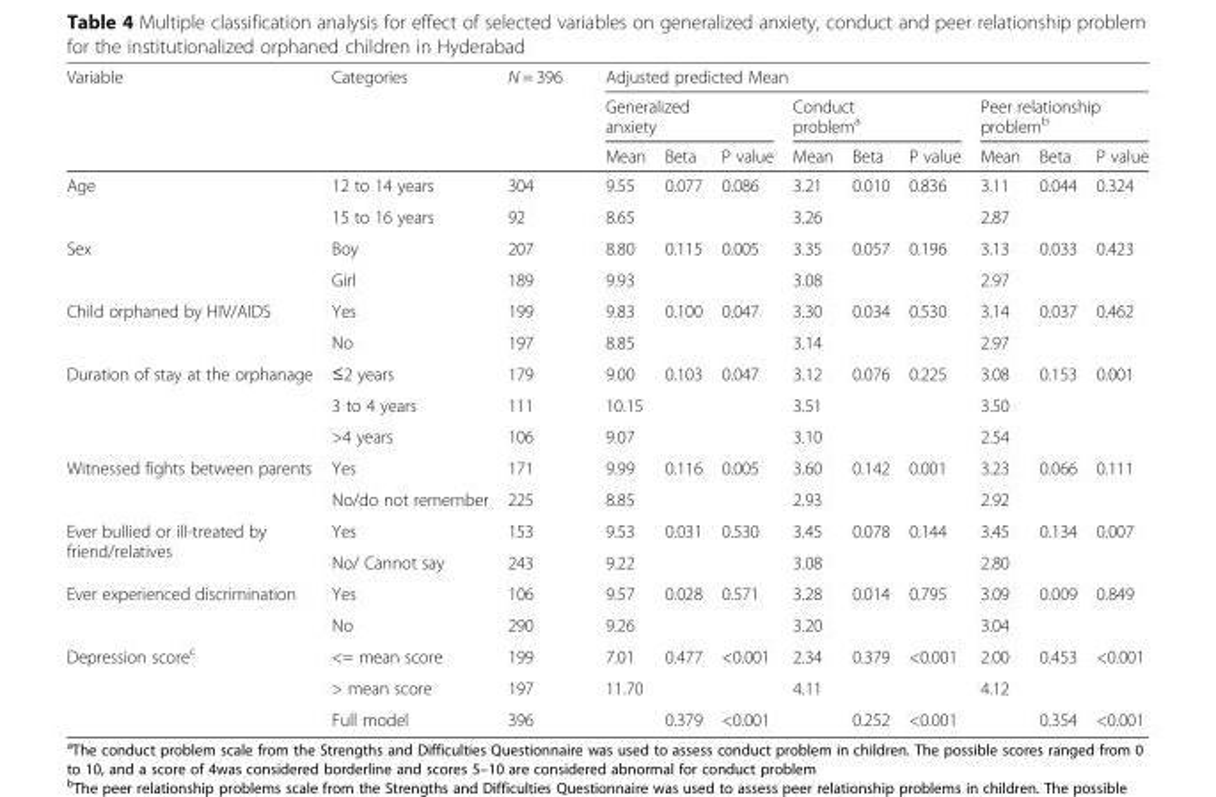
<table><thead><tr><td rowspan="3">Variable</td><td rowspan="3">Categories</td><td rowspan="3">N = 396</td><td colspan="9">Adjusted predicted Mean</td></tr><tr><td colspan="3">Generalized anxiety</td><td colspan="3">Conduct problem<sup>a</sup></td><td colspan="3">Peer relationship problem<sup>b</sup></td></tr><tr><td>Mean</td><td>Beta</td><td>P value</td><td>Mean</td><td>Beta</td><td>P value</td><td>Mean</td><td>Beta</td><td>P value</td></tr></thead><tbody><tr><td rowspan="2">Age</td><td>12 to 14 years</td><td>304</td><td>9.55</td><td rowspan="2">0.077</td><td rowspan="2">0.086</td><td>3.21</td><td rowspan="2">0.010</td><td rowspan="2">0.836</td><td>3.11</td><td rowspan="2">0.044</td><td rowspan="2">0.324</td></tr><tr><td>15 to 16 years</td><td>92</td><td>8.65</td><td>3.26</td><td>2.87</td></tr><tr><td rowspan="2">Sex</td><td>Boy</td><td>207</td><td>8.80</td><td rowspan="2">0.115</td><td rowspan="2">0.005</td><td>3.35</td><td rowspan="2">0.057</td><td rowspan="2">0.196</td><td>3.13</td><td rowspan="2">0.033</td><td rowspan="2">0.423</td></tr><tr><td>Girl</td><td>189</td><td>9.93</td><td>3.08</td><td>2.97</td></tr><tr><td rowspan="2">Child orphaned by HIV/AIDS</td><td>Yes</td><td>199</td><td>9.83</td><td rowspan="2">0.100</td><td rowspan="2">0.047</td><td>3.30</td><td rowspan="2">0.034</td><td rowspan="2">0.530</td><td>3.14</td><td rowspan="2">0.037</td><td rowspan="2">0.462</td></tr><tr><td>No</td><td>197</td><td>8.85</td><td>3.14</td><td>2.97</td></tr><tr><td rowspan="3">Duration of stay at the orphanage</td><td>≤2 years</td><td>179</td><td>9.00</td><td rowspan="3">0.103</td><td rowspan="3">0.047</td><td>3.12</td><td rowspan="3">0.076</td><td rowspan="3">0.225</td><td>3.08</td><td rowspan="3">0.153</td><td rowspan="3">0.001</td></tr><tr><td>3 to 4 years</td><td>111</td><td>10.15</td><td>3.51</td><td>3.50</td></tr><tr><td>&gt;4 years</td><td>106</td><td>9.07</td><td>3.10</td><td>2.54</td></tr><tr><td rowspan="2">Witnessed fights between parents</td><td>Yes</td><td>171</td><td>9.99</td><td rowspan="2">0.116</td><td rowspan="2">0.005</td><td>3.60</td><td rowspan="2">0.142</td><td rowspan="2">0.001</td><td>3.23</td><td rowspan="2">0.066</td><td rowspan="2">0.111</td></tr><tr><td>No/do not remember</td><td>225</td><td>8.85</td><td>2.93</td><td>2.92</td></tr><tr><td rowspan="2">Ever bullied or ill-treated by friend/relatives</td><td>Yes</td><td>153</td><td>9.53</td><td rowspan="2">0.031</td><td rowspan="2">0.530</td><td>3.45</td><td rowspan="2">0.078</td><td rowspan="2">0.144</td><td>3.45</td><td rowspan="2">0.134</td><td rowspan="2">0.007</td></tr><tr><td>No/ Cannot say</td><td>243</td><td>9.22</td><td>3.08</td><td>2.80</td></tr><tr><td rowspan="2">Ever experienced discrimination</td><td>Yes</td><td>106</td><td>9.57</td><td rowspan="2">0.028</td><td rowspan="2">0.571</td><td>3.28</td><td rowspan="2">0.014</td><td rowspan="2">0.795</td><td>3.09</td><td rowspan="2">0.009</td><td rowspan="2">0.849</td></tr><tr><td>No</td><td>290</td><td>9.26</td><td>3.20</td><td>3.04</td></tr><tr><td rowspan="3">Depression score<sup>c</sup></td><td>&lt;= mean score</td><td>199</td><td>7.01</td><td rowspan="2">0.477</td><td rowspan="2">&lt;0.001</td><td>2.34</td><td rowspan="2">0.379</td><td rowspan="2">&lt;0.001</td><td>2.00</td><td rowspan="2">0.453</td><td rowspan="2">&lt;0.001</td></tr><tr><td>&gt; mean score</td><td>197</td><td>11.70</td><td>4.11</td><td>4.12</td></tr><tr><td>Full model</td><td>396</td><td></td><td>0.379</td><td>&lt;0.001</td><td></td><td>0.252</td><td>&lt;0.001</td><td></td><td>0.354</td><td>&lt;0.001</td></tr></tbody></table>